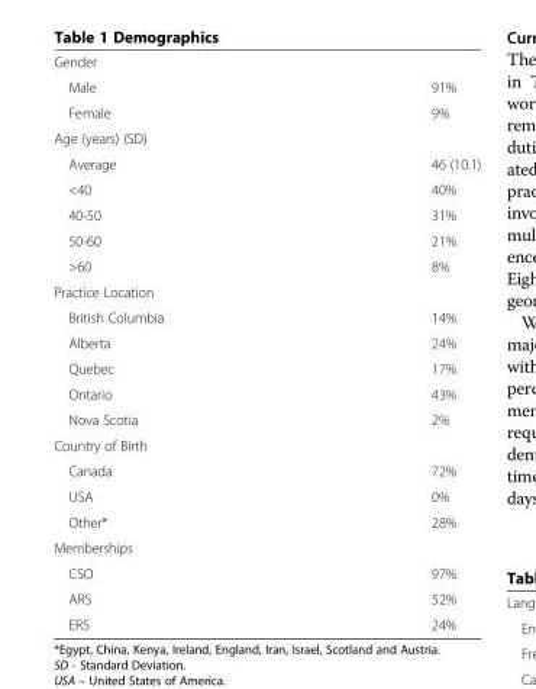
<table><tbody><tr><td colspan="2">Gender</td></tr><tr><td>Male</td><td>91%</td></tr><tr><td>Female</td><td>9%</td></tr><tr><td colspan="2">Age (years) (SD)</td></tr><tr><td>Average</td><td>46 (10.1)</td></tr><tr><td>&lt;40</td><td>40%</td></tr><tr><td>40-50</td><td>31%</td></tr><tr><td>50-60</td><td>21%</td></tr><tr><td>&gt;60</td><td>8%</td></tr><tr><td colspan="2">Practice Location</td></tr><tr><td>British Columbia</td><td>14%</td></tr><tr><td>Alberta</td><td>24%</td></tr><tr><td>Quebec</td><td>17%</td></tr><tr><td>Ontario</td><td>43%</td></tr><tr><td>Nova Scotia</td><td>2%</td></tr><tr><td colspan="2">Country of Birth</td></tr><tr><td>Canada</td><td>72%</td></tr><tr><td>USA</td><td>0%</td></tr><tr><td>Other*</td><td>28%</td></tr><tr><td colspan="2">Memberships</td></tr><tr><td>CSO</td><td>97%</td></tr><tr><td>ARS</td><td>52%</td></tr><tr><td>ERS</td><td>24%</td></tr></tbody></table>